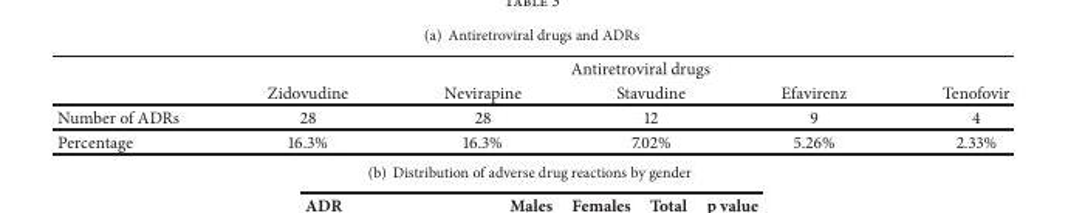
<table><thead><tr><td rowspan="2"></td><td colspan="5">Antiretroviral drugs</td></tr><tr><td>Zidovudine</td><td>Nevirapine</td><td>Stavudine</td><td>Efavirenz</td><td>Tenofovir</td></tr></thead><tbody><tr><td>Number of ADRs</td><td>28</td><td>28</td><td>12</td><td>9</td><td>4</td></tr><tr><td>Percentage</td><td>16.3%</td><td>16.3%</td><td>7.02%</td><td>5.26%</td><td>2.33%</td></tr></tbody></table>